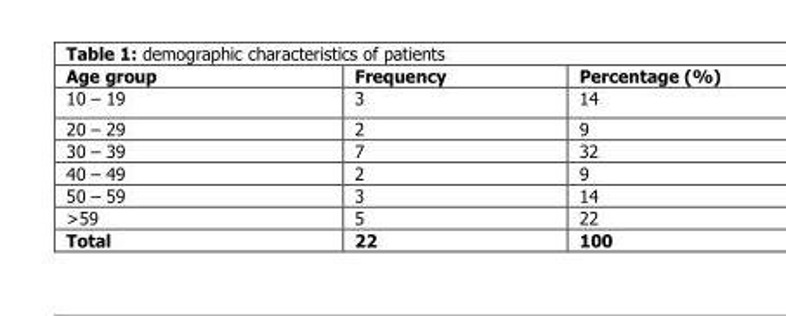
<table><thead><tr><td>Age group</td><td>Frequency</td><td>Percentage (%)</td></tr></thead><tbody><tr><td>10 – 19</td><td>3</td><td>14</td></tr><tr><td>20 – 29</td><td>2</td><td>9</td></tr><tr><td>30 – 39</td><td>7</td><td>32</td></tr><tr><td>40 – 49</td><td>2</td><td>9</td></tr><tr><td>50 – 59</td><td>3</td><td>14</td></tr><tr><td>&gt;59</td><td>5</td><td>22</td></tr><tr><td>Total</td><td>22</td><td>100</td></tr></tbody></table>